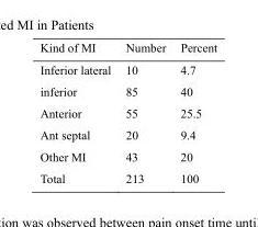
<table><thead><tr><td>Kind of MI</td><td>Number</td><td>Percent</td></tr></thead><tbody><tr><td>Inferior lateral</td><td>10</td><td>4.7</td></tr><tr><td>inferior</td><td>85</td><td>40</td></tr><tr><td>Anterior</td><td>55</td><td>25.5</td></tr><tr><td>Ant septal</td><td>20</td><td>9.4</td></tr><tr><td>Other MI</td><td>43</td><td>20</td></tr><tr><td>Total</td><td>213</td><td>100</td></tr></tbody></table>